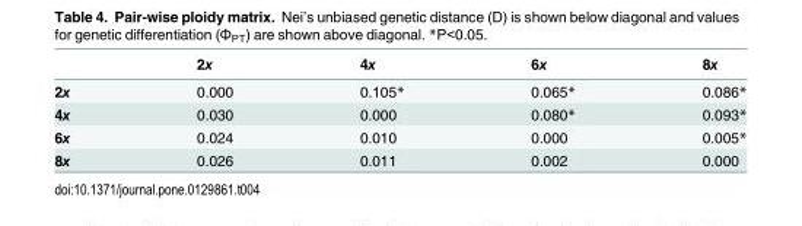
<table><thead><tr><td></td><td>2x</td><td>4x</td><td>6x</td><td>8x</td></tr></thead><tbody><tr><td>2x</td><td>0.000</td><td>0.105*</td><td>0.065*</td><td>0.086*</td></tr><tr><td>4x</td><td>0.030</td><td>0.000</td><td>0.080*</td><td>0.093*</td></tr><tr><td>6x</td><td>0.024</td><td>0.010</td><td>0.000</td><td>0.005*</td></tr><tr><td>8x</td><td>0.026</td><td>0.011</td><td>0.002</td><td>0.000</td></tr></tbody></table>